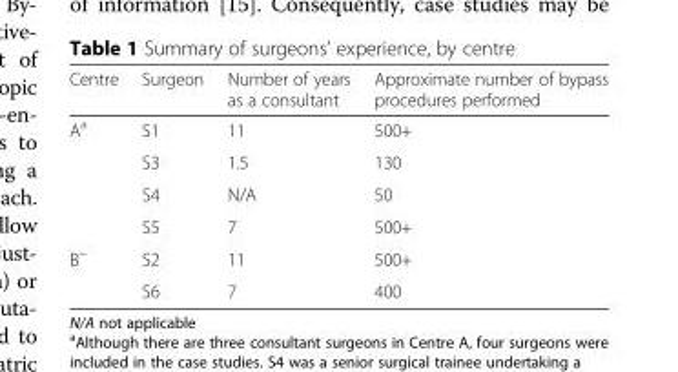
<table><thead><tr><td>Centre</td><td>Surgeon</td><td>Number of years as a consultant</td><td>Approximate number of bypass procedures performed</td></tr></thead><tbody><tr><td rowspan="4">A<sup>a</sup></td><td>S1</td><td>11</td><td>500+</td></tr><tr><td>S3</td><td>1.5</td><td>130</td></tr><tr><td>S4</td><td>N/A</td><td>50</td></tr><tr><td>S5</td><td>7</td><td>500+</td></tr><tr><td rowspan="2">B<sup>~</sup></td><td>S2</td><td>11</td><td>500+</td></tr><tr><td>S6</td><td>7</td><td>400</td></tr></tbody></table>